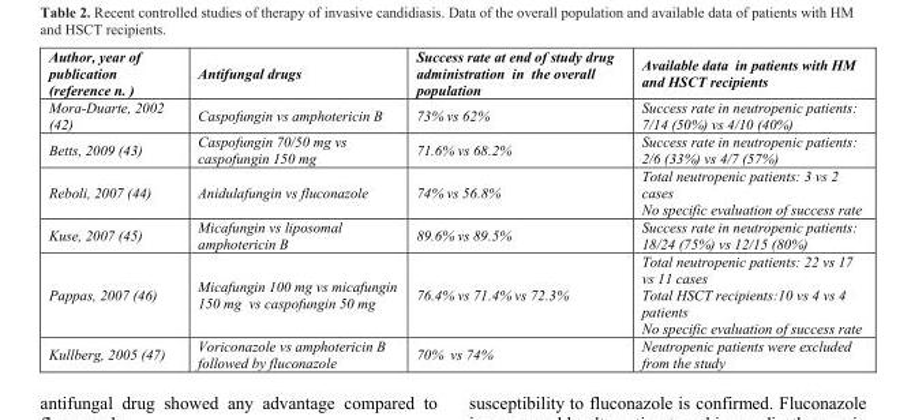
<table><thead><tr><td>Author, year of publication (reference n. )</td><td>Antifungal drugs</td><td>Success rate at end of study drug administration in the overall population</td><td>Available data in patients with HM and HSCT recipients</td></tr></thead><tbody><tr><td>Mora-Duarte, 2002 (42)</td><td>Caspofungin vs amphotericin B</td><td>73% vs 62%</td><td>Success rate in neutropenic patients: 7/14 (50%) vs 4/10 (40%)</td></tr><tr><td>Betts, 2009 (43)</td><td>Caspofungin 70/50 mg vs caspofungin 150 mg</td><td>71.6% vs 68.2%</td><td>Success rate in neutropenic patients: 2/6 (33%) vs 4/7 (57%)</td></tr><tr><td>Reboli, 2007 (44)</td><td>Anidulafungin vs fluconazole</td><td>74% vs 56.8%</td><td>Total neutropenic patients: 3 vs 2 cases No specific evaluation of success rate</td></tr><tr><td>Kuse, 2007 (45)</td><td>Micafungin vs liposomal amphotericin B</td><td>89.6% vs 89.5%</td><td>Success rate in neutropenic patients: 18/24 (75%) vs 12/15 (80%)</td></tr><tr><td>Pappas, 2007 (46)</td><td>Micafungin 100 mg vs micafungin 150 mg vs caspofungin 50 mg</td><td>76.4% vs 71.4% vs 72.3%</td><td>Total neutropenic patients: 22 vs 17 vs 11 cases Total HSCT recipients:10 vs 4 vs 4 patients No specific evaluation of success rate</td></tr><tr><td>Kullberg, 2005 (47)</td><td>Voriconazole vs amphotericin B followed by fluconazole</td><td>70% vs 74%</td><td>Neutropenic patients were excluded from the study</td></tr></tbody></table>